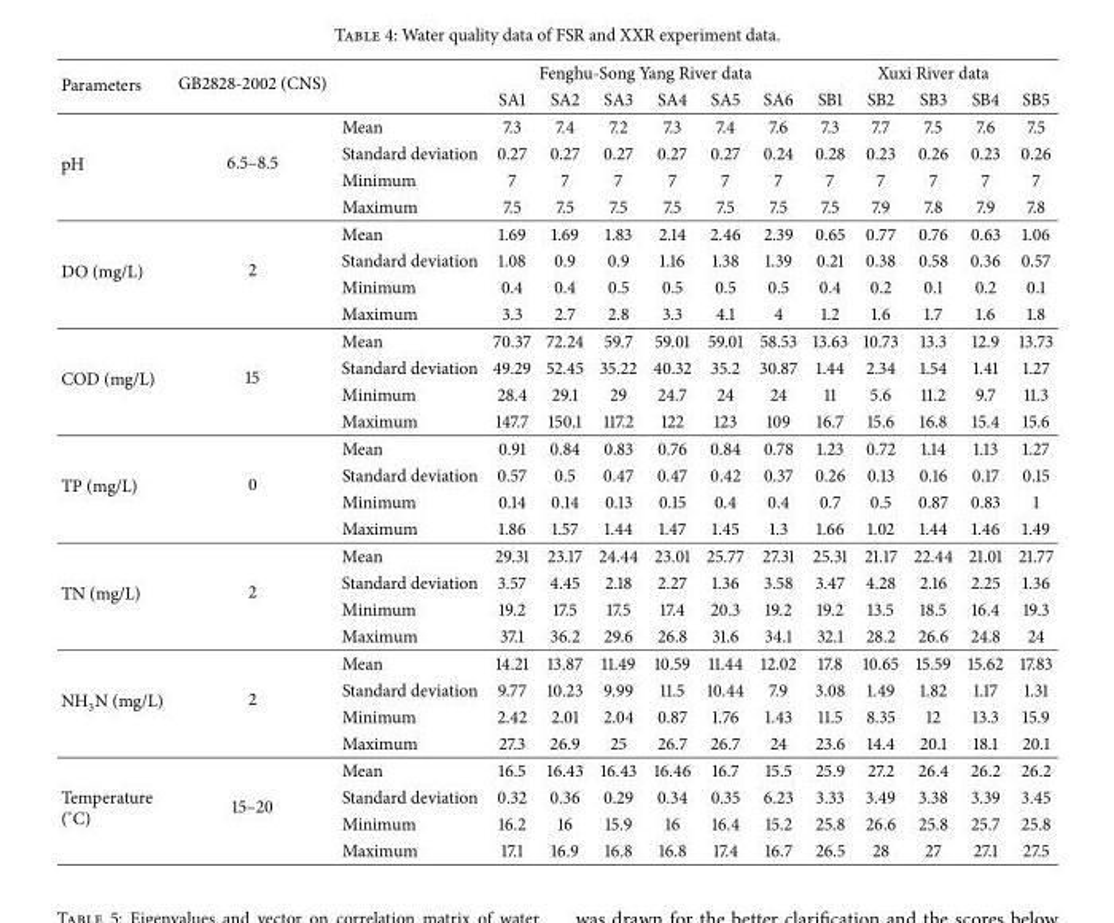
<table><thead><tr><td rowspan="2">Parameters</td><td rowspan="2">GB2828-2002 (CNS)</td><td rowspan="2"></td><td colspan="6">Fenghu-Song Yang River data</td><td colspan="5">Xuxi River data</td></tr><tr><td>SA1</td><td>SA2</td><td>SA3</td><td>SA4</td><td>SA5</td><td>SA6</td><td>SB1</td><td>SB2</td><td>SB3</td><td>SB4</td><td>SB5</td></tr></thead><tbody><tr><td rowspan="4">pH</td><td rowspan="4">6.5–8.5</td><td>Mean</td><td>7.3</td><td>7.4</td><td>7.2</td><td>7.3</td><td>7.4</td><td>7.6</td><td>7.3</td><td>7.7</td><td>7.5</td><td>7.6</td><td>7.5</td></tr><tr><td>Standard deviation</td><td>0.27</td><td>0.27</td><td>0.27</td><td>0.27</td><td>0.27</td><td>0.24</td><td>0.28</td><td>0.23</td><td>0.26</td><td>0.23</td><td>0.26</td></tr><tr><td>Minimum</td><td>7</td><td>7</td><td>7</td><td>7</td><td>7</td><td>7</td><td>7</td><td>7</td><td>7</td><td>7</td><td>7</td></tr><tr><td>Maximum</td><td>7.5</td><td>7.5</td><td>7.5</td><td>7.5</td><td>7.5</td><td>7.5</td><td>7.5</td><td>7.9</td><td>7.8</td><td>7.9</td><td>7.8</td></tr><tr><td rowspan="4">DO (mg/L)</td><td rowspan="4">2</td><td>Mean</td><td>1.69</td><td>1.69</td><td>1.83</td><td>2.14</td><td>2.46</td><td>2.39</td><td>0.65</td><td>0.77</td><td>0.76</td><td>0.63</td><td>1.06</td></tr><tr><td>Standard deviation</td><td>1.08</td><td>0.9</td><td>0.9</td><td>1.16</td><td>1.38</td><td>1.39</td><td>0.21</td><td>0.38</td><td>0.58</td><td>0.36</td><td>0.57</td></tr><tr><td>Minimum</td><td>0.4</td><td>0.4</td><td>0.5</td><td>0.5</td><td>0.5</td><td>0.5</td><td>0.4</td><td>0.2</td><td>0.1</td><td>0.2</td><td>0.1</td></tr><tr><td>Maximum</td><td>3.3</td><td>2.7</td><td>2.8</td><td>3.3</td><td>4.1</td><td>4</td><td>1.2</td><td>1.6</td><td>1.7</td><td>1.6</td><td>1.8</td></tr><tr><td rowspan="4">COD (mg/L)</td><td rowspan="4">15</td><td>Mean</td><td>70.37</td><td>72.24</td><td>59.7</td><td>59.01</td><td>59.01</td><td>58.53</td><td>13.63</td><td>10.73</td><td>13.3</td><td>12.9</td><td>13.73</td></tr><tr><td>Standard deviation</td><td>49.29</td><td>52.45</td><td>35.22</td><td>40.32</td><td>35.2</td><td>30.87</td><td>1.44</td><td>2.34</td><td>1.54</td><td>1.41</td><td>1.27</td></tr><tr><td>Minimum</td><td>28.4</td><td>29.1</td><td>29</td><td>24.7</td><td>24</td><td>24</td><td>11</td><td>5.6</td><td>11.2</td><td>9.7</td><td>11.3</td></tr><tr><td>Maximum</td><td>147.7</td><td>150.1</td><td>117.2</td><td>122</td><td>123</td><td>109</td><td>16.7</td><td>15.6</td><td>16.8</td><td>15.4</td><td>15.6</td></tr><tr><td rowspan="4">TP (mg/L)</td><td rowspan="4">0</td><td>Mean</td><td>0.91</td><td>0.84</td><td>0.83</td><td>0.76</td><td>0.84</td><td>0.78</td><td>1.23</td><td>0.72</td><td>1.14</td><td>1.13</td><td>1.27</td></tr><tr><td>Standard deviation</td><td>0.57</td><td>0.5</td><td>0.47</td><td>0.47</td><td>0.42</td><td>0.37</td><td>0.26</td><td>0.13</td><td>0.16</td><td>0.17</td><td>0.15</td></tr><tr><td>Minimum</td><td>0.14</td><td>0.14</td><td>0.13</td><td>0.15</td><td>0.4</td><td>0.4</td><td>0.7</td><td>0.5</td><td>0.87</td><td>0.83</td><td>1</td></tr><tr><td>Maximum</td><td>1.86</td><td>1.57</td><td>1.44</td><td>1.47</td><td>1.45</td><td>1.3</td><td>1.66</td><td>1.02</td><td>1.44</td><td>1.46</td><td>1.49</td></tr><tr><td rowspan="4">TN (mg/L)</td><td rowspan="4">2</td><td>Mean</td><td>29.31</td><td>23.17</td><td>24.44</td><td>23.01</td><td>25.77</td><td>27.31</td><td>25.31</td><td>21.17</td><td>22.44</td><td>21.01</td><td>21.77</td></tr><tr><td>Standard deviation</td><td>3.57</td><td>4.45</td><td>2.18</td><td>2.27</td><td>1.36</td><td>3.58</td><td>3.47</td><td>4.28</td><td>2.16</td><td>2.25</td><td>1.36</td></tr><tr><td>Minimum</td><td>19.2</td><td>17.5</td><td>17.5</td><td>17.4</td><td>20.3</td><td>19.2</td><td>19.2</td><td>13.5</td><td>18.5</td><td>16.4</td><td>19.3</td></tr><tr><td>Maximum</td><td>37.1</td><td>36.2</td><td>29.6</td><td>26.8</td><td>31.6</td><td>34.1</td><td>32.1</td><td>28.2</td><td>26.6</td><td>24.8</td><td>24</td></tr><tr><td rowspan="4">NH<sub>3</sub>N (mg/L)</td><td rowspan="4">2</td><td>Mean</td><td>14.21</td><td>13.87</td><td>11.49</td><td>10.59</td><td>11.44</td><td>12.02</td><td>17.8</td><td>10.65</td><td>15.59</td><td>15.62</td><td>17.83</td></tr><tr><td>Standard deviation</td><td>9.77</td><td>10.23</td><td>9.99</td><td>11.5</td><td>10.44</td><td>7.9</td><td>3.08</td><td>1.49</td><td>1.82</td><td>1.17</td><td>1.31</td></tr><tr><td>Minimum</td><td>2.42</td><td>2.01</td><td>2.04</td><td>0.87</td><td>1.76</td><td>1.43</td><td>11.5</td><td>8.35</td><td>12</td><td>13.3</td><td>15.9</td></tr><tr><td>Maximum</td><td>27.3</td><td>26.9</td><td>25</td><td>26.7</td><td>26.7</td><td>24</td><td>23.6</td><td>14.4</td><td>20.1</td><td>18.1</td><td>20.1</td></tr><tr><td rowspan="4">Temperature (∘C)</td><td rowspan="4">15–20</td><td>Mean</td><td>16.5</td><td>16.43</td><td>16.43</td><td>16.46</td><td>16.7</td><td>15.5</td><td>25.9</td><td>27.2</td><td>26.4</td><td>26.2</td><td>26.2</td></tr><tr><td>Standard deviation</td><td>0.32</td><td>0.36</td><td>0.29</td><td>0.34</td><td>0.35</td><td>6.23</td><td>3.33</td><td>3.49</td><td>3.38</td><td>3.39</td><td>3.45</td></tr><tr><td>Minimum</td><td>16.2</td><td>16</td><td>15.9</td><td>16</td><td>16.4</td><td>15.2</td><td>25.8</td><td>26.6</td><td>25.8</td><td>25.7</td><td>25.8</td></tr><tr><td>Maximum</td><td>17.1</td><td>16.9</td><td>16.8</td><td>16.8</td><td>17.4</td><td>16.7</td><td>26.5</td><td>28</td><td>27</td><td>27.1</td><td>27.5</td></tr></tbody></table>